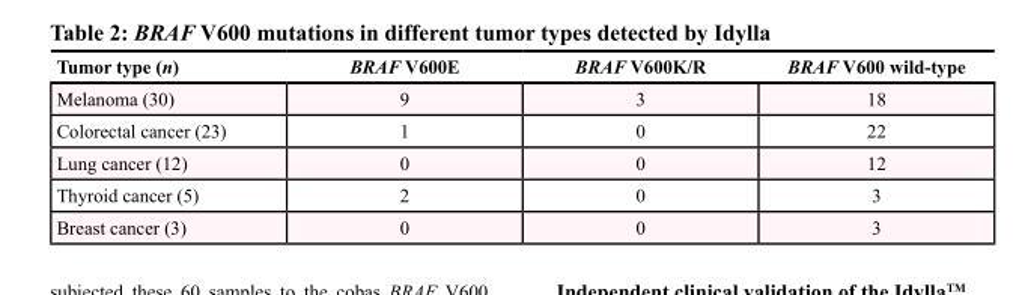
<table><thead><tr><td>Tumor type (n)</td><td>BRAF V600E</td><td>BRAF V600K/R</td><td>BRAF V600 wild-type</td></tr></thead><tbody><tr><td>Melanoma (30)</td><td>9</td><td>3</td><td>18</td></tr><tr><td>Colorectal cancer (23)</td><td>1</td><td>0</td><td>22</td></tr><tr><td>Lung cancer (12)</td><td>0</td><td>0</td><td>12</td></tr><tr><td>Thyroid cancer (5)</td><td>2</td><td>0</td><td>3</td></tr><tr><td>Breast cancer (3)</td><td>0</td><td>0</td><td>3</td></tr></tbody></table>